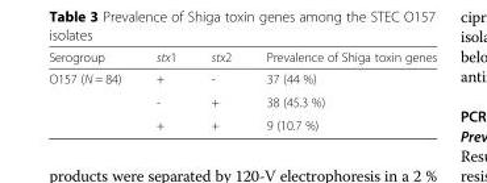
<table><thead><tr><td>Serogroup</td><td>stx1</td><td>stx2</td><td>Prevalence of Shiga toxin genes</td></tr></thead><tbody><tr><td rowspan="3">O157 (N = 84)</td><td>+</td><td>-</td><td>37 (44 %)</td></tr><tr><td>-</td><td>+</td><td>38 (45.3 %)</td></tr><tr><td>+</td><td>+</td><td>9 (10.7 %)</td></tr></tbody></table>